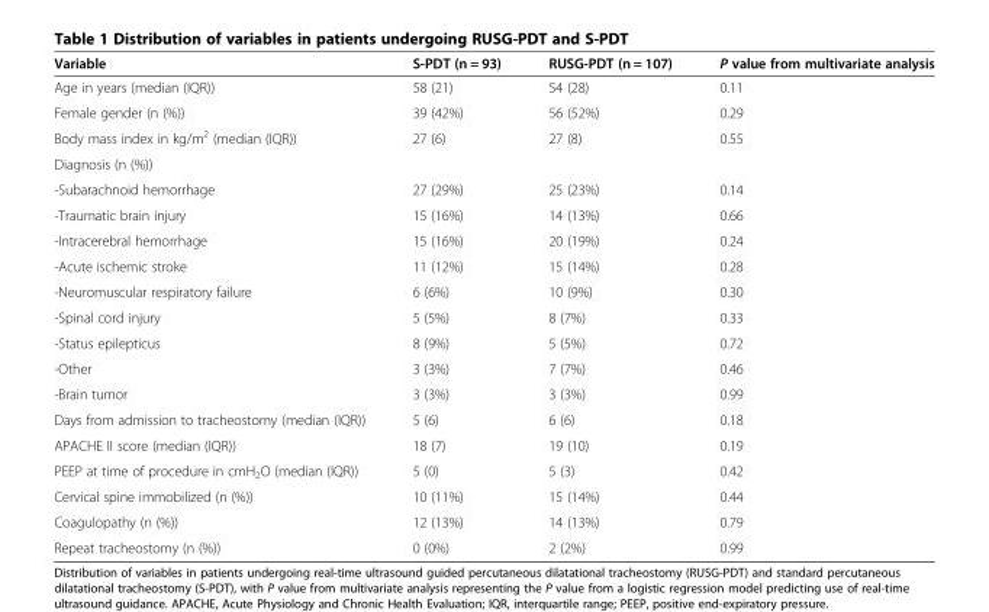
<table><thead><tr><td>Variable</td><td>S-PDT (n = 93)</td><td>RUSG-PDT (n = 107)</td><td>P value from multivariate analysis</td></tr></thead><tbody><tr><td>Age in years (median (IQR))</td><td>58 (21)</td><td>54 (28)</td><td>0.11</td></tr><tr><td>Female gender (n (%))</td><td>39 (42%)</td><td>56 (52%)</td><td>0.29</td></tr><tr><td>Body mass index in kg/m<sup>2</sup> (median (IQR))</td><td>27 (6)</td><td>27 (8)</td><td>0.55</td></tr><tr><td colspan="4">Diagnosis (n (%))</td></tr><tr><td>-Subarachnoid hemorrhage</td><td>27 (29%)</td><td>25 (23%)</td><td>0.14</td></tr><tr><td>-Traumatic brain injury</td><td>15 (16%)</td><td>14 (13%)</td><td>0.66</td></tr><tr><td>-Intracerebral hemorrhage</td><td>15 (16%)</td><td>20 (19%)</td><td>0.24</td></tr><tr><td>-Acute ischemic stroke</td><td>11 (12%)</td><td>15 (14%)</td><td>0.28</td></tr><tr><td>-Neuromuscular respiratory failure</td><td>6 (6%)</td><td>10 (9%)</td><td>0.30</td></tr><tr><td>-Spinal cord injury</td><td>5 (5%)</td><td>8 (7%)</td><td>0.33</td></tr><tr><td>-Status epilepticus</td><td>8 (9%)</td><td>5 (5%)</td><td>0.72</td></tr><tr><td>-Other</td><td>3 (3%)</td><td>7 (7%)</td><td>0.46</td></tr><tr><td>-Brain tumor</td><td>3 (3%)</td><td>3 (3%)</td><td>0.99</td></tr><tr><td>Days from admission to tracheostomy (median (IQR))</td><td>5 (6)</td><td>6 (6)</td><td>0.18</td></tr><tr><td>APACHE II score (median (IQR))</td><td>18 (7)</td><td>19 (10)</td><td>0.19</td></tr><tr><td>PEEP at time of procedure in cmH<sub>2</sub>O (median (IQR))</td><td>5 (0)</td><td>5 (3)</td><td>0.42</td></tr><tr><td>Cervical spine immobilized (n (%))</td><td>10 (11%)</td><td>15 (14%)</td><td>0.44</td></tr><tr><td>Coagulopathy (n (%))</td><td>12 (13%)</td><td>14 (13%)</td><td>0.79</td></tr><tr><td>Repeat tracheostomy (n (%))</td><td>0 (0%)</td><td>2 (2%)</td><td>0.99</td></tr></tbody></table>